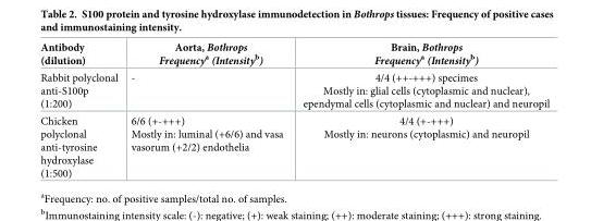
<table><thead><tr><td>Antibody (dilution)</td><td>Aorta, Bothrops Frequency<sup>a</sup> (Intensity<sup>b</sup>)</td><td>Brain, Bothrops Frequency<sup>a</sup> (Intensity<sup>b</sup>)</td></tr></thead><tbody><tr><td>Rabbit polyclonal anti-S100p (1:200)</td><td>-</td><td>4/4 (++-+++) specimes Mostly in: glial cells (cytoplasmic and nuclear), ependymal cells (cytoplasmic and nuclear) and neuropil</td></tr><tr><td>Chicken polyclonal anti-tyrosine hydroxylase (1:500)</td><td>6/6 (+-+++) Mostly in: luminal (+6/6) and vasa vasorum (+2/2) endothelia</td><td>4/4 (+-+++) Mostly in: neurons (cytoplasmic) and neuropil</td></tr></tbody></table>